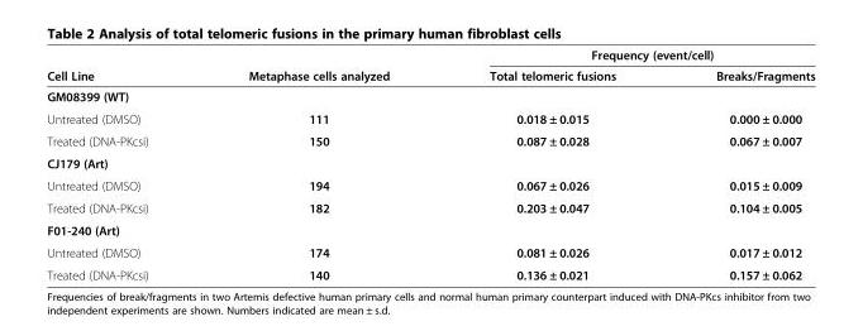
<table><thead><tr><td rowspan="2">Cell Line</td><td rowspan="2">Metaphase cells analyzed</td><td colspan="2">Frequency (event/cell)</td></tr><tr><td>Total telomeric fusions</td><td>Breaks/Fragments</td></tr></thead><tbody><tr><td colspan="4">GM08399 (WT)</td></tr><tr><td>Untreated (DMSO)</td><td>111</td><td>0.018 ± 0.015</td><td>0.000 ± 0.000</td></tr><tr><td>Treated (DNA-PKcsi)</td><td>150</td><td>0.087 ± 0.028</td><td>0.067 ± 0.007</td></tr><tr><td colspan="4">CJ179 (Art)</td></tr><tr><td>Untreated (DMSO)</td><td>194</td><td>0.067 ± 0.026</td><td>0.015 ± 0.009</td></tr><tr><td>Treated (DNA-PKcsi)</td><td>182</td><td>0.203 ± 0.047</td><td>0.104 ± 0.005</td></tr><tr><td colspan="4">F01-240 (Art)</td></tr><tr><td>Untreated (DMSO)</td><td>174</td><td>0.081 ± 0.026</td><td>0.017 ± 0.012</td></tr><tr><td>Treated (DNA-PKcsi)</td><td>140</td><td>0.136 ± 0.021</td><td>0.157 ± 0.062</td></tr></tbody></table>